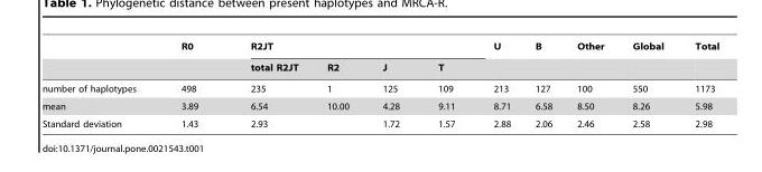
<table><thead><tr><td rowspan="2"></td><td rowspan="2">R0</td><td colspan="4">R2JT</td><td rowspan="2">U</td><td rowspan="2">B</td><td rowspan="2">Other</td><td rowspan="2">Global</td><td rowspan="2">Total</td></tr><tr><td>total R2JT</td><td>R2</td><td>J</td><td>T</td></tr></thead><tbody><tr><td>number of haplotypes</td><td>498</td><td>235</td><td>1</td><td>125</td><td>109</td><td>213</td><td>127</td><td>100</td><td>550</td><td>1173</td></tr><tr><td>mean</td><td>3.89</td><td>6.54</td><td>10.00</td><td>4.28</td><td>9.11</td><td>8.71</td><td>6.58</td><td>8.50</td><td>8.26</td><td>5.98</td></tr><tr><td>Standard deviation</td><td>1.43</td><td>2.93</td><td></td><td>1.72</td><td>1.57</td><td>2.88</td><td>2.06</td><td>2.46</td><td>2.58</td><td>2.98</td></tr></tbody></table>